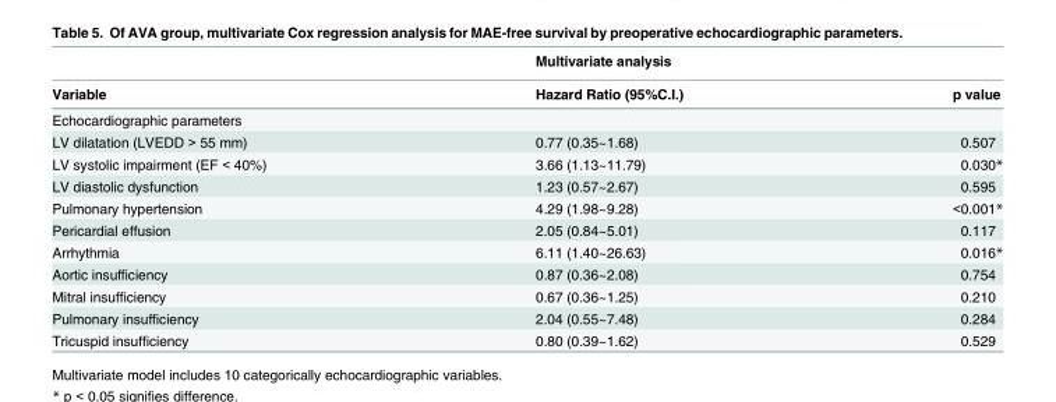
<table><thead><tr><td rowspan="2">Variable</td><td rowspan="2">Multivariate analysis Hazard Ratio (95%C.I.)</td><td rowspan="2">p value</td></tr><tr></tr></thead><tbody><tr><td colspan="3">Echocardiographic parameters</td></tr><tr><td>LV dilatation (LVEDD &gt; 55 mm)</td><td>0.77 (0.35~1.68)</td><td>0.507</td></tr><tr><td>LV systolic impairment (EF &lt; 40%)</td><td>3.66 (1.13~11.79)</td><td>0.030*</td></tr><tr><td>LV diastolic dysfunction</td><td>1.23 (0.57~2.67)</td><td>0.595</td></tr><tr><td>Pulmonary hypertension</td><td>4.29 (1.98~9.28)</td><td>&lt;0.001*</td></tr><tr><td>Pericardial effusion</td><td>2.05 (0.84~5.01)</td><td>0.117</td></tr><tr><td>Arrhythmia</td><td>6.11 (1.40~26.63)</td><td>0.016*</td></tr><tr><td>Aortic insufficiency</td><td>0.87 (0.36~2.08)</td><td>0.754</td></tr><tr><td>Mitral insufficiency</td><td>0.67 (0.36~1.25)</td><td>0.210</td></tr><tr><td>Pulmonary insufficiency</td><td>2.04 (0.55~7.48)</td><td>0.284</td></tr><tr><td>Tricuspid insufficiency</td><td>0.80 (0.39~1.62)</td><td>0.529</td></tr></tbody></table>